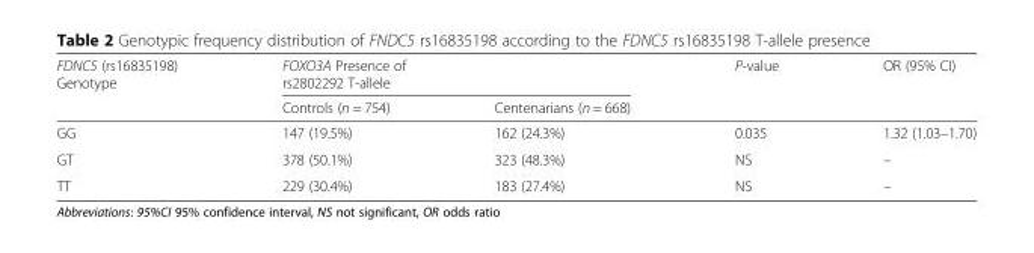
<table><thead><tr><td rowspan="2">FDNC5 (rs16835198) Genotype</td><td colspan="2">FOXO3A Presence of rs2802292 T-allele</td><td rowspan="2">P-value</td><td rowspan="2">OR (95% CI)</td></tr><tr><td>Controls (n = 754)</td><td>Centenarians (n = 668)</td></tr></thead><tbody><tr><td>GG</td><td>147 (19.5%)</td><td>162 (24.3%)</td><td>0.035</td><td>1.32 (1.03–1.70)</td></tr><tr><td>GT</td><td>378 (50.1%)</td><td>323 (48.3%)</td><td>NS</td><td>–</td></tr><tr><td>TT</td><td>229 (30.4%)</td><td>183 (27.4%)</td><td>NS</td><td>–</td></tr></tbody></table>